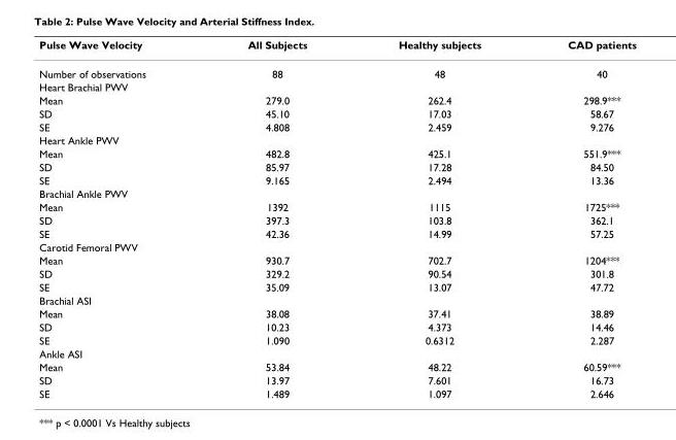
<table><thead><tr><td>Pulse Wave Velocity</td><td>All Subjects</td><td>Healthy subjects</td><td>CAD patients</td></tr></thead><tbody><tr><td>Number of observations</td><td>88</td><td>48</td><td>40</td></tr><tr><td colspan="4">Heart Brachial PWV</td></tr><tr><td>Mean</td><td>279.0</td><td>262.4</td><td>298.9***</td></tr><tr><td>SD</td><td>45.10</td><td>17.03</td><td>58.67</td></tr><tr><td>SE</td><td>4.808</td><td>2.459</td><td>9.276</td></tr><tr><td colspan="4">Heart Ankle PWV</td></tr><tr><td>Mean</td><td>482.8</td><td>425.1</td><td>551.9***</td></tr><tr><td>SD</td><td>85.97</td><td>17.28</td><td>84.50</td></tr><tr><td>SE</td><td>9.165</td><td>2.494</td><td>13.36</td></tr><tr><td colspan="4">Brachial Ankle PWV</td></tr><tr><td>Mean</td><td>1392</td><td>1115</td><td>1725***</td></tr><tr><td>SD</td><td>397.3</td><td>103.8</td><td>362.1</td></tr><tr><td>SE</td><td>42.36</td><td>14.99</td><td>57.25</td></tr><tr><td colspan="4">Carotid Femoral PWV</td></tr><tr><td>Mean</td><td>930.7</td><td>702.7</td><td>1204***</td></tr><tr><td>SD</td><td>329.2</td><td>90.54</td><td>301.8</td></tr><tr><td>SE</td><td>35.09</td><td>13.07</td><td>47.72</td></tr><tr><td colspan="4">Brachial ASI</td></tr><tr><td>Mean</td><td>38.08</td><td>37.41</td><td>38.89</td></tr><tr><td>SD</td><td>10.23</td><td>4.373</td><td>14.46</td></tr><tr><td>SE</td><td>1.090</td><td>0.6312</td><td>2.287</td></tr><tr><td colspan="4">Ankle ASI</td></tr><tr><td>Mean</td><td>53.84</td><td>48.22</td><td>60.59***</td></tr><tr><td>SD</td><td>13.97</td><td>7.601</td><td>16.73</td></tr><tr><td>SE</td><td>1.489</td><td>1.097</td><td>2.646</td></tr></tbody></table>